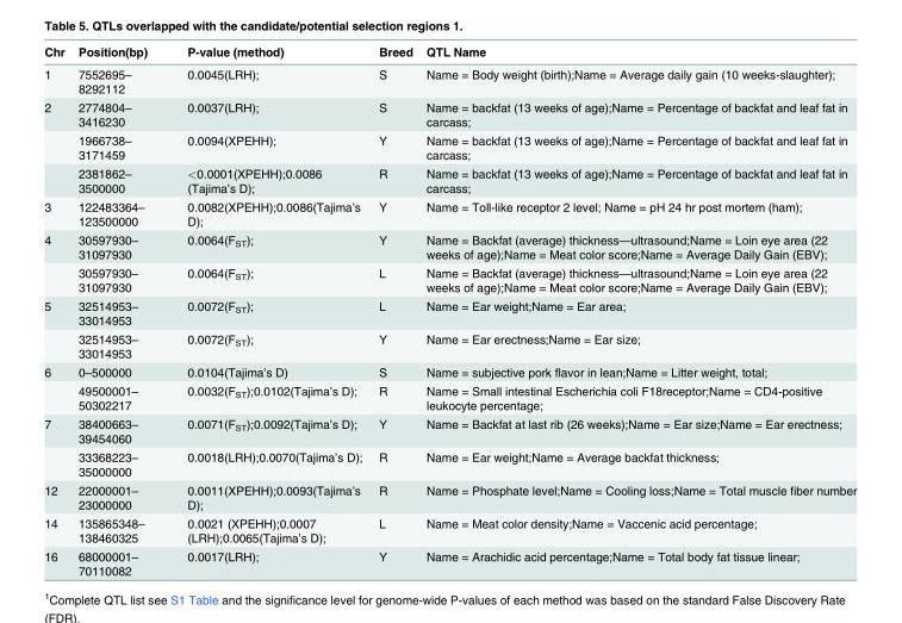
<table><thead><tr><td>Chr</td><td>Position(bp)</td><td>P-value (method)</td><td>Breed</td><td>QTL Name</td></tr></thead><tbody><tr><td>1</td><td>7552695– 8292112</td><td>0.0045(LRH);</td><td>S</td><td>Name = Body weight (birth);Name = Average daily gain (10 weeks-slaughter);</td></tr><tr><td rowspan="3">2</td><td>2774804– 3416230</td><td>0.0037(LRH);</td><td>S</td><td>Name = backfat (13 weeks of age);Name = Percentage of backfat and leaf fat in carcass;</td></tr><tr><td>1966738– 3171459</td><td>0.0094(XPEHH);</td><td>Y</td><td>Name = backfat (13 weeks of age);Name = Percentage of backfat and leaf fat in carcass;</td></tr><tr><td>2381862– 3500000</td><td>&lt;0.0001(XPEHH);0.0086 (Tajima’s D);</td><td>R</td><td>Name = backfat (13 weeks of age);Name = Percentage of backfat and leaf fat in carcass;</td></tr><tr><td>3</td><td>122483364– 123500000</td><td>0.0082(XPEHH);0.0086(Tajima’s D);</td><td>Y</td><td>Name = Toll-like receptor 2 level; Name = pH 24 hr post mortem (ham);</td></tr><tr><td rowspan="2">4</td><td>30597930– 31097930</td><td>0.0064(F<sub>ST</sub>);</td><td>Y</td><td>Name = Backfat (average) thickness—ultrasound;Name = Loin eye area (22 weeks of age);Name = Meat color score;Name = Average Daily Gain (EBV);</td></tr><tr><td>30597930– 31097930</td><td>0.0064(F<sub>ST</sub>);</td><td>L</td><td>Name = Backfat (average) thickness—ultrasound;Name = Loin eye area (22 weeks of age);Name = Meat color score;Name = Average Daily Gain (EBV);</td></tr><tr><td rowspan="2">5</td><td>32514953– 33014953</td><td>0.0072(F<sub>ST</sub>);</td><td>L</td><td>Name = Ear weight;Name = Ear area;</td></tr><tr><td>32514953– 33014953</td><td>0.0072(F<sub>ST</sub>);</td><td>Y</td><td>Name = Ear erectness;Name = Ear size;</td></tr><tr><td rowspan="2">6</td><td>0–500000</td><td>0.0104(Tajima’s D)</td><td>S</td><td>Name = subjective pork flavor in lean;Name = Litter weight, total;</td></tr><tr><td>49500001– 50302217</td><td>0.0032(F<sub>ST</sub>);0.0102(Tajima’s D);</td><td>R</td><td>Name = Small intestinal Escherichia coli F18receptor;Name = CD4-positive leukocyte percentage;</td></tr><tr><td rowspan="2">7</td><td>38400663– 39454060</td><td>0.0071(F<sub>ST</sub>);0.0092(Tajima’s D);</td><td>Y</td><td>Name = Backfat at last rib (26 weeks);Name = Ear size;Name = Ear erectness;</td></tr><tr><td>33368223– 35000000</td><td>0.0018(LRH);0.0070(Tajima’s D);</td><td>R</td><td>Name = Ear weight;Name = Average backfat thickness;</td></tr><tr><td>12</td><td>22000001– 23000000</td><td>0.0011(XPEHH);0.0093(Tajima’s D);</td><td>R</td><td>Name = Phosphate level;Name = Cooling loss;Name = Total muscle fiber number</td></tr><tr><td>14</td><td>135865348– 138460325</td><td>0.0021 (XPEHH);0.0007 (LRH);0.0065(Tajima’s D);</td><td>L</td><td>Name = Meat color density;Name = Vaccenic acid percentage;</td></tr><tr><td>16</td><td>68000001– 70110082</td><td>0.0017(LRH);</td><td>Y</td><td>Name = Arachidic acid percentage;Name = Total body fat tissue linear;</td></tr></tbody></table>